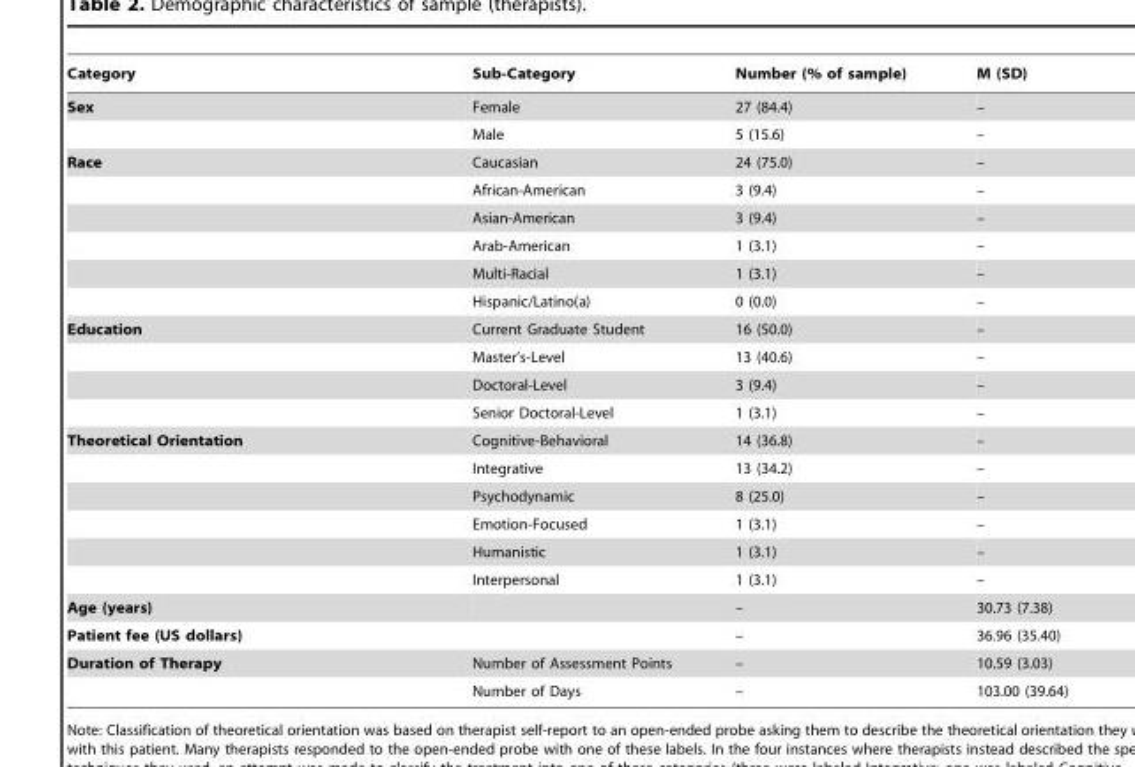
<table><thead><tr><td>Category</td><td>Sub-Category</td><td>Number (% of sample)</td><td>M (SD)</td></tr></thead><tbody><tr><td rowspan="2">Sex</td><td>Female</td><td>27 (84.4)</td><td>–</td></tr><tr><td>Male</td><td>5 (15.6)</td><td>–</td></tr><tr><td rowspan="6">Race</td><td>Caucasian</td><td>24 (75.0)</td><td>–</td></tr><tr><td>African-American</td><td>3 (9.4)</td><td>–</td></tr><tr><td>Asian-American</td><td>3 (9.4)</td><td>–</td></tr><tr><td>Arab-American</td><td>1 (3.1)</td><td>–</td></tr><tr><td>Multi-Racial</td><td>1 (3.1)</td><td>–</td></tr><tr><td>Hispanic/Latino(a)</td><td>0 (0.0)</td><td>–</td></tr><tr><td rowspan="4">Education</td><td>Current Graduate Student</td><td>16 (50.0)</td><td>–</td></tr><tr><td>Master’s-Level</td><td>13 (40.6)</td><td>–</td></tr><tr><td>Doctoral-Level</td><td>3 (9.4)</td><td>–</td></tr><tr><td>Senior Doctoral-Level</td><td>1 (3.1)</td><td>–</td></tr><tr><td rowspan="6">Theoretical Orientation</td><td>Cognitive-Behavioral</td><td>14 (36.8)</td><td>–</td></tr><tr><td>Integrative</td><td>13 (34.2)</td><td>–</td></tr><tr><td>Psychodynamic</td><td>8 (25.0)</td><td>–</td></tr><tr><td>Emotion-Focused</td><td>1 (3.1)</td><td>–</td></tr><tr><td>Humanistic</td><td>1 (3.1)</td><td>–</td></tr><tr><td>Interpersonal</td><td>1 (3.1)</td><td>–</td></tr><tr><td>Age (years)</td><td></td><td>–</td><td>30.73 (7.38)</td></tr><tr><td>Patient fee (US dollars)</td><td></td><td>–</td><td>36.96 (35.40)</td></tr><tr><td rowspan="2">Duration of Therapy</td><td>Number of Assessment Points</td><td>–</td><td>10.59 (3.03)</td></tr><tr><td>Number of Days</td><td>–</td><td>103.00 (39.64)</td></tr></tbody></table>